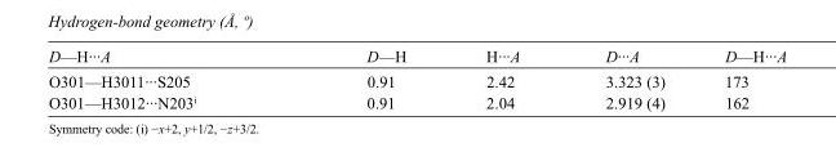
<table><tbody><tr><td>D—H···A</td><td>D—H</td><td>H···A</td><td>D···A</td><td>D—H···A</td></tr><tr><td>O301—H3011···S205</td><td>0.91</td><td>2.42</td><td>3.323 (3)</td><td>173</td></tr><tr><td>O301—H3012···N203<sup>i</sup></td><td>0.91</td><td>2.04</td><td>2.919 (4)</td><td>162</td></tr></tbody></table>